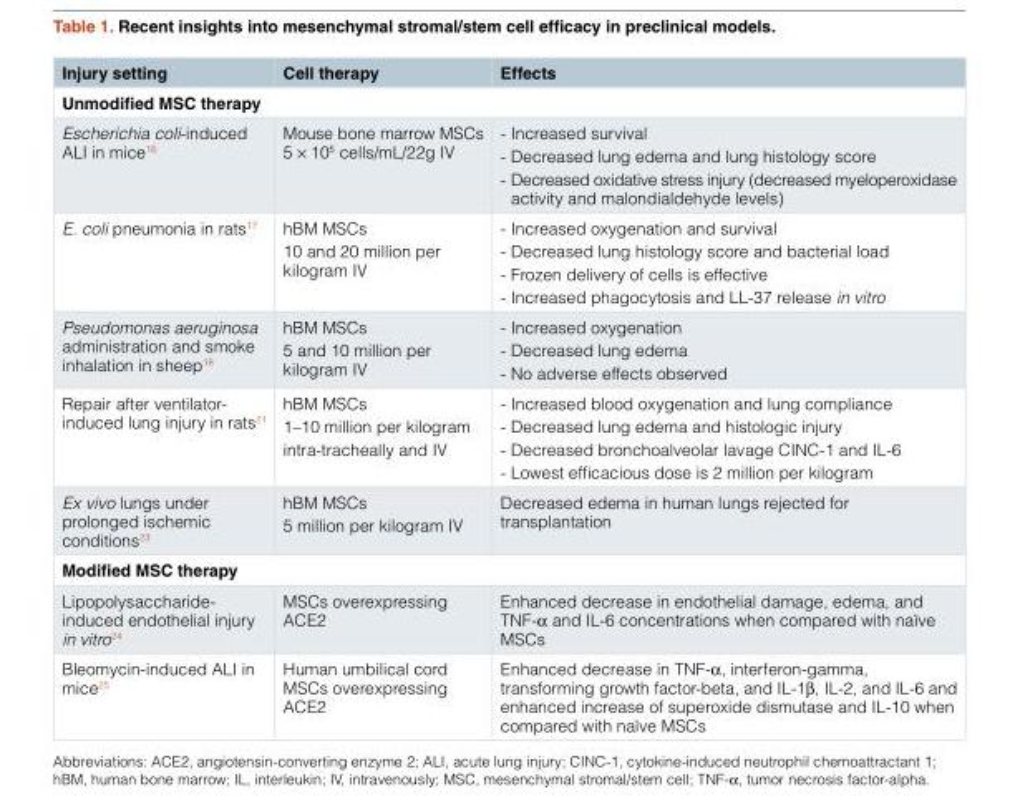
<table><thead><tr><td>Injury setting</td><td>Cell therapy</td><td>Effects</td></tr></thead><tbody><tr><td colspan="3">Unmodified MSC therapy</td></tr><tr><td>Escherichia coli-induced ALI in mice<sup>16</sup></td><td>Mouse bone marrow MSCs 5 × 10<sup>5</sup> cells/mL/22g IV</td><td>- Increased survival - Decreased lung edema and lung histology score - Decreased oxidative stress injury (decreased myeloperoxidase activity and malondialdehyde levels)</td></tr><tr><td>E. coli pneumonia in rats<sup>17</sup></td><td>hBM MSCs 10 and 20 million per kilogram IV</td><td>- Increased oxygenation and survival - Decreased lung histology score and bacterial load - Frozen delivery of cells is effective - Increased phagocytosis and LL-37 release in vitro</td></tr><tr><td>Pseudomonas aeruginosa administration and smoke inhalation in sheep<sup>18</sup></td><td>hBM MSCs 5 and 10 million per kilogram IV</td><td>- Increased oxygenation - Decreased lung edema - No adverse effects observed</td></tr><tr><td>Repair after ventilator- induced lung injury in rats<sup>21</sup></td><td>hBM MSCs 1–10 million per kilogram intra-tracheally and IV</td><td>- Increased blood oxygenation and lung compliance - Decreased lung edema and histologic injury - Decreased bronchoalveolar lavage CINC-1 and IL-6 - Lowest efficacious dose is 2 million per kilogram</td></tr><tr><td>Ex vivo lungs under prolonged ischemic conditions<sup>23</sup></td><td>hBM MSCs 5 million per kilogram IV</td><td>Decreased edema in human lungs rejected for transplantation</td></tr><tr><td colspan="3">Modified MSC therapy</td></tr><tr><td>Lipopolysaccharide- induced endothelial injury in vitro<sup>24</sup></td><td>MSCs overexpressing ACE2</td><td>Enhanced decrease in endothelial damage, edema, and TNF-α and IL-6 concentrations when compared with naïve MSCs</td></tr><tr><td>Bleomycin-induced ALI in mice<sup>25</sup></td><td>Human umbilical cord MSCs overexpressing ACE2</td><td>Enhanced decrease in TNF-α, interferon-gamma, transforming growth factor-beta, and IL-1β, IL-2, and IL-6 and enhanced increase of superoxide dismutase and IL-10 when compared with naïve MSCs</td></tr></tbody></table>